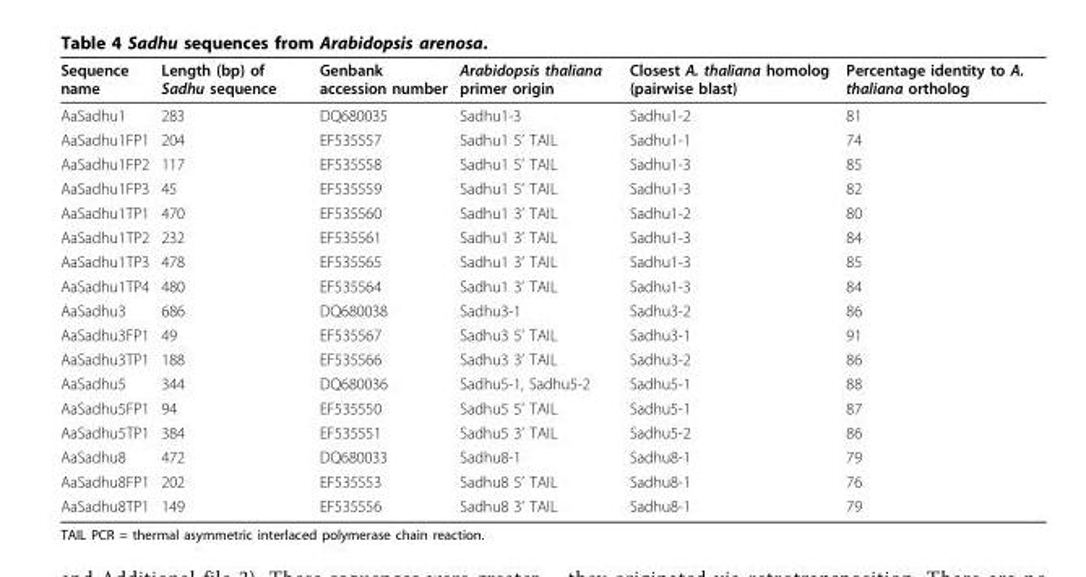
<table><thead><tr><td>Sequence name</td><td>Length (bp) of Sadhu sequence</td><td>Genbank accession number</td><td>Arabidopsis thaliana primer origin</td><td>Closest A. thaliana homolog (pairwise blast)</td><td>Percentage identity to A. thaliana ortholog</td></tr></thead><tbody><tr><td>AaSadhu1</td><td>283</td><td>DQ680035</td><td>Sadhu1-3</td><td>Sadhu1-2</td><td>81</td></tr><tr><td>AaSadhu1FP1</td><td>204</td><td>EF535557</td><td>Sadhu1 5’ TAIL</td><td>Sadhu1-1</td><td>74</td></tr><tr><td>AaSadhu1FP2</td><td>117</td><td>EF535558</td><td>Sadhu1 5’ TAIL</td><td>Sadhu1-3</td><td>85</td></tr><tr><td>AaSadhu1FP3</td><td>45</td><td>EF535559</td><td>Sadhu1 5’ TAIL</td><td>Sadhu1-3</td><td>82</td></tr><tr><td>AaSadhu1TP1</td><td>470</td><td>EF535560</td><td>Sadhu1 3’ TAIL</td><td>Sadhu1-2</td><td>80</td></tr><tr><td>AaSadhu1TP2</td><td>232</td><td>EF535561</td><td>Sadhu1 3’ TAIL</td><td>Sadhu1-3</td><td>84</td></tr><tr><td>AaSadhu1TP3</td><td>478</td><td>EF535565</td><td>Sadhu1 3’ TAIL</td><td>Sadhu1-3</td><td>85</td></tr><tr><td>AaSadhu1TP4</td><td>480</td><td>EF535564</td><td>Sadhu1 3’ TAIL</td><td>Sadhu1-3</td><td>84</td></tr><tr><td>AaSadhu3</td><td>686</td><td>DQ680038</td><td>Sadhu3-1</td><td>Sadhu3-2</td><td>86</td></tr><tr><td>AaSadhu3FP1</td><td>49</td><td>EF535567</td><td>Sadhu3 5’ TAIL</td><td>Sadhu3-1</td><td>91</td></tr><tr><td>AaSadhu3TP1</td><td>188</td><td>EF535566</td><td>Sadhu3 3’ TAIL</td><td>Sadhu3-2</td><td>86</td></tr><tr><td>AaSadhu5</td><td>344</td><td>DQ680036</td><td>Sadhu5-1, Sadhu5-2</td><td>Sadhu5-1</td><td>88</td></tr><tr><td>AaSadhu5FP1</td><td>94</td><td>EF535550</td><td>Sadhu5 5’ TAIL</td><td>Sadhu5-1</td><td>87</td></tr><tr><td>AaSadhu5TP1</td><td>384</td><td>EF535551</td><td>Sadhu5 3’ TAIL</td><td>Sadhu5-2</td><td>86</td></tr><tr><td>AaSadhu8</td><td>472</td><td>DQ680033</td><td>Sadhu8-1</td><td>Sadhu8-1</td><td>79</td></tr><tr><td>AaSadhu8FP1</td><td>202</td><td>EF535553</td><td>Sadhu8 5’ TAIL</td><td>Sadhu8-1</td><td>76</td></tr><tr><td>AaSadhu8TP1</td><td>149</td><td>EF535556</td><td>Sadhu8 3’ TAIL</td><td>Sadhu8-1</td><td>79</td></tr></tbody></table>